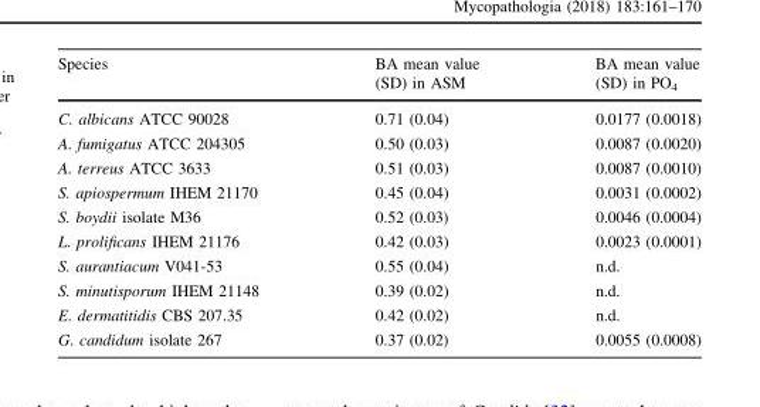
<table><thead><tr><td>Species</td><td>BA mean value (SD) in ASM</td><td>BA mean value (SD) in PO<sub>4</sub></td></tr></thead><tbody><tr><td>C. albicans ATCC 90028</td><td>0.71 (0.04)</td><td>0.0177 (0.0018)</td></tr><tr><td>A. fumigatus ATCC 204305</td><td>0.50 (0.03)</td><td>0.0087 (0.0020)</td></tr><tr><td>A. terreus ATCC 3633</td><td>0.51 (0.03)</td><td>0.0087 (0.0010)</td></tr><tr><td>S. apiospermum IHEM 21170</td><td>0.45 (0.04)</td><td>0.0031 (0.0002)</td></tr><tr><td>S. boydii isolate M36</td><td>0.52 (0.03)</td><td>0.0046 (0.0004)</td></tr><tr><td>L. prolificans IHEM 21176</td><td>0.42 (0.03)</td><td>0.0023 (0.0001)</td></tr><tr><td>S. aurantiacum V041-53</td><td>0.55 (0.04)</td><td>n.d.</td></tr><tr><td>S. minutisporum IHEM 21148</td><td>0.39 (0.02)</td><td>n.d.</td></tr><tr><td>E. dermatitidis CBS 207.35</td><td>0.42 (0.02)</td><td>n.d.</td></tr><tr><td>G. candidum isolate 267</td><td>0.37 (0.02)</td><td>0.0055 (0.0008)</td></tr></tbody></table>